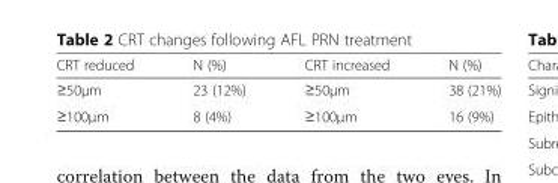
<table><thead><tr><td>CRT reduced</td><td>N (%)</td><td>CRT increased</td><td>N (%)</td></tr></thead><tbody><tr><td>≥50μm</td><td>23 (12%)</td><td>≥50μm</td><td>38 (21%)</td></tr><tr><td>≥100μm</td><td>8 (4%)</td><td>≥100μm</td><td>16 (9%)</td></tr></tbody></table>